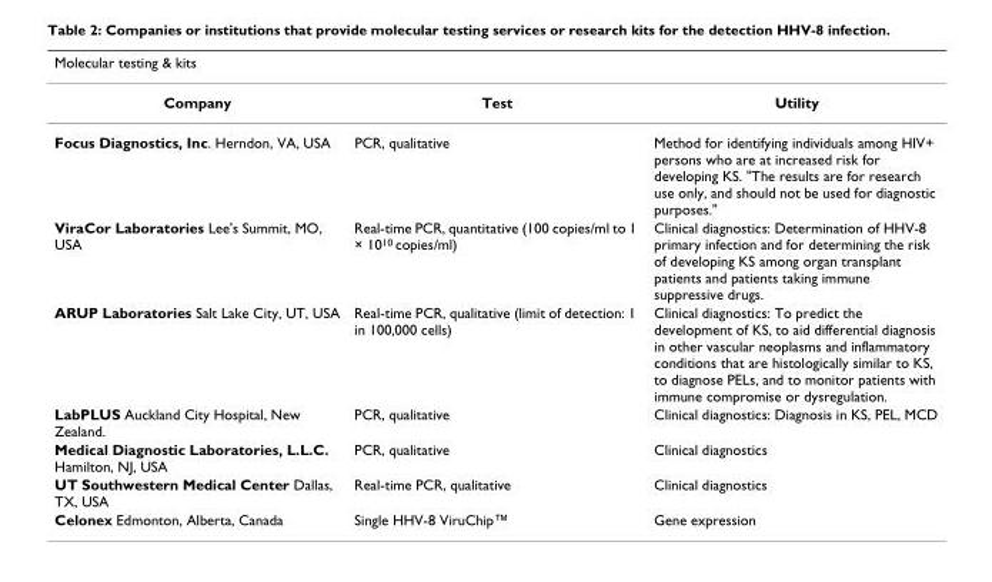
<table><thead><tr><td>Molecular testing &amp; kits</td><td></td><td></td></tr></thead><tbody><tr><td>Company</td><td>Test</td><td>Utility</td></tr><tr><td>Focus Diagnostics, Inc. Herndon, VA, USA</td><td>PCR, qualitative</td><td>Method for identifying individuals among HIV+ persons who are at increased risk for developing KS. &quot;The results are for research use only, and should not be used for diagnostic purposes.&quot;</td></tr><tr><td>ViraCor Laboratories Lee&#x27;s Summit, MO, USA</td><td>Real-time PCR, quantitative (100 copies/ml to 1 × 10<sup>10</sup> copies/ml)</td><td>Clinical diagnostics: Determination of HHV-8 primary infection and for determining the risk of developing KS among organ transplant patients and patients taking immune suppressive drugs.</td></tr><tr><td>ARUP Laboratories Salt Lake City, UT, USA</td><td>Real-time PCR, qualitative (limit of detection: 1 in 100,000 cells)</td><td>Clinical diagnostics: To predict the development of KS, to aid differential diagnosis in other vascular neoplasms and inflammatory conditions that are histologically similar to KS, to diagnose PELs, and to monitor patients with immune compromise or dysregulation.</td></tr><tr><td>LabPLUS Auckland City Hospital, New Zealand.</td><td>PCR, qualitative</td><td>Clinical diagnostics: Diagnosis in KS, PEL, MCD</td></tr><tr><td>Medical Diagnostic Laboratories, L.L.C. Hamilton, NJ, USA</td><td>PCR, qualitative</td><td>Clinical diagnostics</td></tr><tr><td>UT Southwestern Medical Center Dallas, TX, USA</td><td>Real-time PCR, qualitative</td><td>Clinical diagnostics</td></tr><tr><td>Celonex Edmonton, Alberta, Canada</td><td>Single HHV-8 ViruChip™</td><td>Gene expression</td></tr></tbody></table>